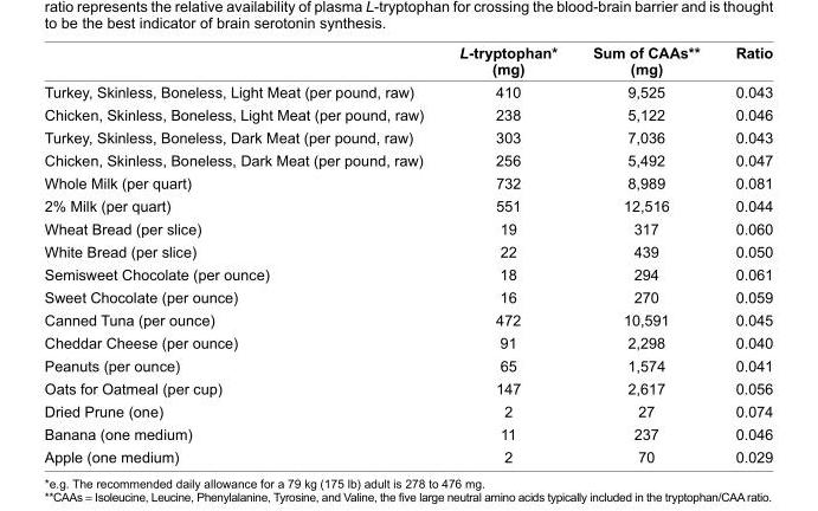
<table><thead><tr><td></td><td>L-tryptophan* (mg)</td><td>Sum of CAAs** (mg)</td><td>Ratio</td></tr></thead><tbody><tr><td>Turkey, Skinless, Boneless, Light Meat (per pound, raw)</td><td>410</td><td>9,525</td><td>0.043</td></tr><tr><td>Chicken, Skinless, Boneless, Light Meat (per pound, raw)</td><td>238</td><td>5,122</td><td>0.046</td></tr><tr><td>Turkey, Skinless, Boneless, Dark Meat (per pound, raw)</td><td>303</td><td>7,036</td><td>0.043</td></tr><tr><td>Chicken, Skinless, Boneless, Dark Meat (per pound, raw)</td><td>256</td><td>5,492</td><td>0.047</td></tr><tr><td>Whole Milk (per quart)</td><td>732</td><td>8,989</td><td>0.081</td></tr><tr><td>2% Milk (per quart)</td><td>551</td><td>12,516</td><td>0.044</td></tr><tr><td>Wheat Bread (per slice)</td><td>19</td><td>317</td><td>0.060</td></tr><tr><td>White Bread (per slice)</td><td>22</td><td>439</td><td>0.050</td></tr><tr><td>Semisweet Chocolate (per ounce)</td><td>18</td><td>294</td><td>0.061</td></tr><tr><td>Sweet Chocolate (per ounce)</td><td>16</td><td>270</td><td>0.059</td></tr><tr><td>Canned Tuna (per ounce)</td><td>472</td><td>10,591</td><td>0.045</td></tr><tr><td>Cheddar Cheese (per ounce)</td><td>91</td><td>2,298</td><td>0.040</td></tr><tr><td>Peanuts (per ounce)</td><td>65</td><td>1,574</td><td>0.041</td></tr><tr><td>Oats for Oatmeal (per cup)</td><td>147</td><td>2,617</td><td>0.056</td></tr><tr><td>Dried Prune (one)</td><td>2</td><td>27</td><td>0.074</td></tr><tr><td>Banana (one medium)</td><td>11</td><td>237</td><td>0.046</td></tr><tr><td>Apple (one medium)</td><td>2</td><td>70</td><td>0.029</td></tr></tbody></table>